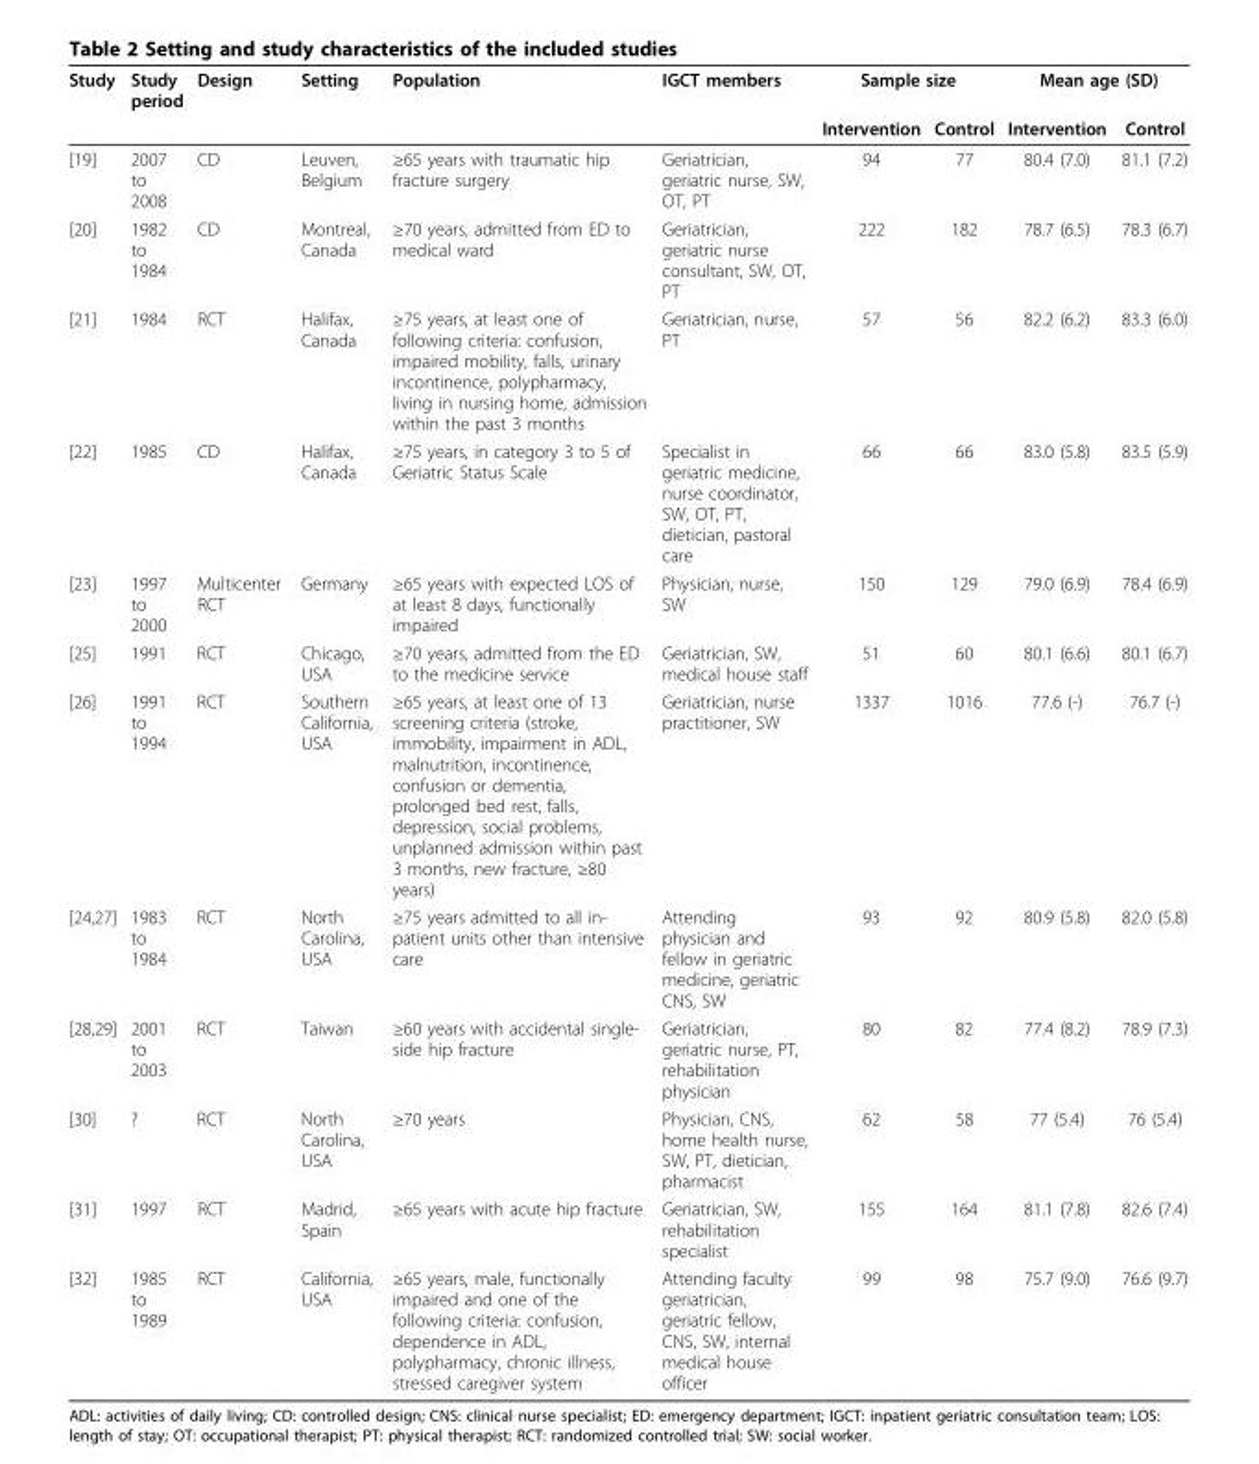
<table><thead><tr><td rowspan="2">Study</td><td rowspan="2">Study period</td><td rowspan="2">Design</td><td rowspan="2">Setting</td><td rowspan="2">Population</td><td rowspan="2">IGCT members</td><td colspan="2">Sample size</td><td colspan="2">Mean age (SD)</td></tr><tr><td>Intervention</td><td>Control</td><td>Intervention</td><td>Control</td></tr></thead><tbody><tr><td>[19]</td><td>2007 to 2008</td><td>CD</td><td>Leuven, Belgium</td><td>≥65 years with traumatic hip fracture surgery</td><td>Geriatrician, geriatric nurse, SW, OT, PT</td><td>94</td><td>77</td><td>80.4 (7.0)</td><td>81.1 (7.2)</td></tr><tr><td>[20]</td><td>1982 to 1984</td><td>CD</td><td>Montreal, Canada</td><td>≥70 years, admitted from ED to medical ward</td><td>Geriatrician, geriatric nurse consultant, SW, OT, PT</td><td>222</td><td>182</td><td>78.7 (6.5)</td><td>78.3 (6.7)</td></tr><tr><td>[21]</td><td>1984</td><td>RCT</td><td>Halifax, Canada</td><td>≥75 years, at least one of following criteria: confusion, impaired mobility, falls, urinary incontinence, polypharmacy, living in nursing home, admission within the past 3 months</td><td>Geriatrician, nurse, PT</td><td>57</td><td>56</td><td>82.2 (6.2)</td><td>83.3 (6.0)</td></tr><tr><td>[22]</td><td>1985</td><td>CD</td><td>Halifax, Canada</td><td>≥75 years, in category 3 to 5 of Geriatric Status Scale</td><td>Specialist in geriatric medicine, nurse coordinator, SW, OT, PT, dietician, pastoral care</td><td>66</td><td>66</td><td>83.0 (5.8)</td><td>83.5 (5.9)</td></tr><tr><td>[23]</td><td>1997 to 2000</td><td>Multicenter RCT</td><td>Germany</td><td>≥65 years with expected LOS of at least 8 days, functionally impaired</td><td>Physician, nurse, SW</td><td>150</td><td>129</td><td>79.0 (6.9)</td><td>78.4 (6.9)</td></tr><tr><td>[25]</td><td>1991</td><td>RCT</td><td>Chicago, USA</td><td>≥70 years, admitted from the ED to the medicine service</td><td>Geriatrician, SW, medical house staff</td><td>51</td><td>60</td><td>80.1 (6.6)</td><td>80.1 (6.7)</td></tr><tr><td>[26]</td><td>1991 to 1994</td><td>RCT</td><td>Southern California, USA</td><td>≥65 years, at least one of 13 screening criteria (stroke, immobility, impairment in ADL, malnutrition, incontinence, confusion or dementia, prolonged bed rest, falls, depression, social problems, unplanned admission within past 3 months, new fracture, ≥80 years)</td><td>Geriatrician, nurse practitioner, SW</td><td>1337</td><td>1016</td><td>77.6 (-)</td><td>76.7 (-)</td></tr><tr><td>[24,27]</td><td>1983 to 1984</td><td>RCT</td><td>North Carolina, USA</td><td>≥75 years admitted to all in- patient units other than intensive care</td><td>Attending physician and fellow in geriatric medicine, geriatric CNS, SW</td><td>93</td><td>92</td><td>80.9 (5.8)</td><td>82.0 (5.8)</td></tr><tr><td>[28,29]</td><td>2001 to 2003</td><td>RCT</td><td>Taiwan</td><td>≥60 years with accidental single- side hip fracture</td><td>Geriatrician, geriatric nurse, PT, rehabilitation physician</td><td>80</td><td>82</td><td>77.4 (8.2)</td><td>78.9 (7.3)</td></tr><tr><td>[30]</td><td>?</td><td>RCT</td><td>North Carolina, USA</td><td>≥70 years</td><td>Physician, CNS, home health nurse, SW, PT, dietician, pharmacist</td><td>62</td><td>58</td><td>77 (5.4)</td><td>76 (5.4)</td></tr><tr><td>[31]</td><td>1997</td><td>RCT</td><td>Madrid, Spain</td><td>≥65 years with acute hip fracture</td><td>Geriatrician, SW, rehabilitation specialist</td><td>155</td><td>164</td><td>81.1 (7.8)</td><td>82.6 (7.4)</td></tr><tr><td>[32]</td><td>1985 to 1989</td><td>RCT</td><td>California, USA</td><td>≥65 years, male, functionally impaired and one of the following criteria: confusion, dependence in ADL, polypharmacy, chronic illness, stressed caregiver system</td><td>Attending faculty geriatrician, geriatric fellow, CNS, SW, internal medical house officer</td><td>99</td><td>98</td><td>75.7 (9.0)</td><td>76.6 (9.7)</td></tr></tbody></table>